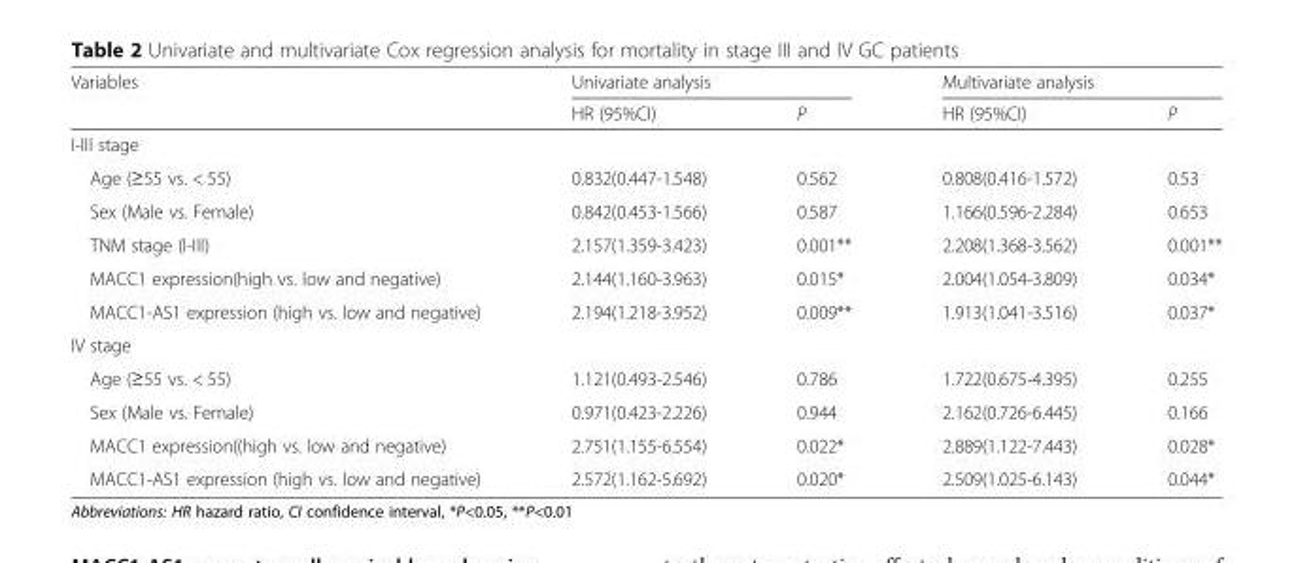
<table><thead><tr><td rowspan="2">Variables</td><td colspan="2">Univariate analysis</td><td colspan="2">Multivariate analysis</td></tr><tr><td>HR (95%CI)</td><td>P</td><td>HR (95%CI)</td><td>P</td></tr></thead><tbody><tr><td colspan="5">I-III stage</td></tr><tr><td>Age (≥55 vs. &lt; 55)</td><td>0.832(0.447-1.548)</td><td>0.562</td><td>0.808(0.416-1.572)</td><td>0.53</td></tr><tr><td>Sex (Male vs. Female)</td><td>0.842(0.453-1.566)</td><td>0.587</td><td>1.166(0.596-2.284)</td><td>0.653</td></tr><tr><td>TNM stage (I-III)</td><td>2.157(1.359-3.423)</td><td>0.001**</td><td>2.208(1.368-3.562)</td><td>0.001**</td></tr><tr><td>MACC1 expression(high vs. low and negative)</td><td>2.144(1.160-3.963)</td><td>0.015*</td><td>2.004(1.054-3.809)</td><td>0.034*</td></tr><tr><td>MACC1-AS1 expression (high vs. low and negative)</td><td>2.194(1.218-3.952)</td><td>0.009**</td><td>1.913(1.041-3.516)</td><td>0.037*</td></tr><tr><td colspan="5">IV stage</td></tr><tr><td>Age (≥55 vs. &lt; 55)</td><td>1.121(0.493-2.546)</td><td>0.786</td><td>1.722(0.675-4.395)</td><td>0.255</td></tr><tr><td>Sex (Male vs. Female)</td><td>0.971(0.423-2.226)</td><td>0.944</td><td>2.162(0.726-6.445)</td><td>0.166</td></tr><tr><td>MACC1 expression((high vs. low and negative)</td><td>2.751(1.155-6.554)</td><td>0.022*</td><td>2.889(1.122-7.443)</td><td>0.028*</td></tr><tr><td>MACC1-AS1 expression (high vs. low and negative)</td><td>2.572(1.162-5.692)</td><td>0.020*</td><td>2.509(1.025-6.143)</td><td>0.044*</td></tr></tbody></table>